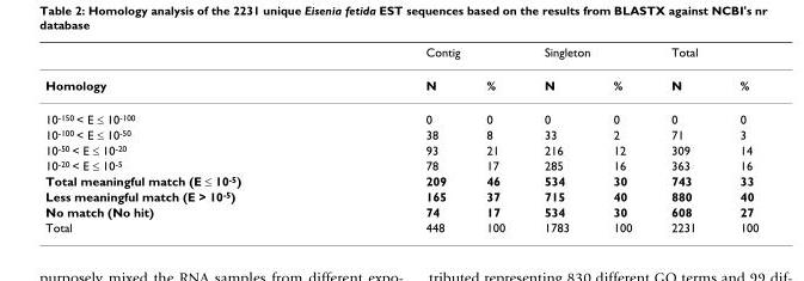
<table><thead><tr><td rowspan="2">Homology</td><td colspan="2">Contig</td><td colspan="2">Singleton</td><td colspan="2">Total</td></tr><tr><td>N</td><td>%</td><td>N</td><td>%</td><td>N</td><td>%</td></tr></thead><tbody><tr><td>10<sup>-150</sup> &lt; E ≤ 10<sup>-100</sup></td><td>0</td><td>0</td><td>0</td><td>0</td><td>0</td><td>0</td></tr><tr><td>10<sup>-100</sup> &lt; E ≤ 10<sup>-50</sup></td><td>38</td><td>8</td><td>33</td><td>2</td><td>71</td><td>3</td></tr><tr><td>10<sup>-50</sup> &lt; E ≤ 10<sup>-20</sup></td><td>93</td><td>21</td><td>216</td><td>12</td><td>309</td><td>14</td></tr><tr><td>10<sup>-20</sup> &lt; E ≤ 10<sup>-5</sup></td><td>78</td><td>17</td><td>285</td><td>16</td><td>363</td><td>16</td></tr><tr><td>Total meaningful match (E ≤ 10<sup>-5</sup>)</td><td>209</td><td>46</td><td>534</td><td>30</td><td>743</td><td>33</td></tr><tr><td>Less meaningful match (E &gt; 10<sup>-5</sup>)</td><td>165</td><td>37</td><td>715</td><td>40</td><td>880</td><td>40</td></tr><tr><td>No match (No hit)</td><td>74</td><td>17</td><td>534</td><td>30</td><td>608</td><td>27</td></tr><tr><td>Total</td><td>448</td><td>100</td><td>1783</td><td>100</td><td>2231</td><td>100</td></tr></tbody></table>